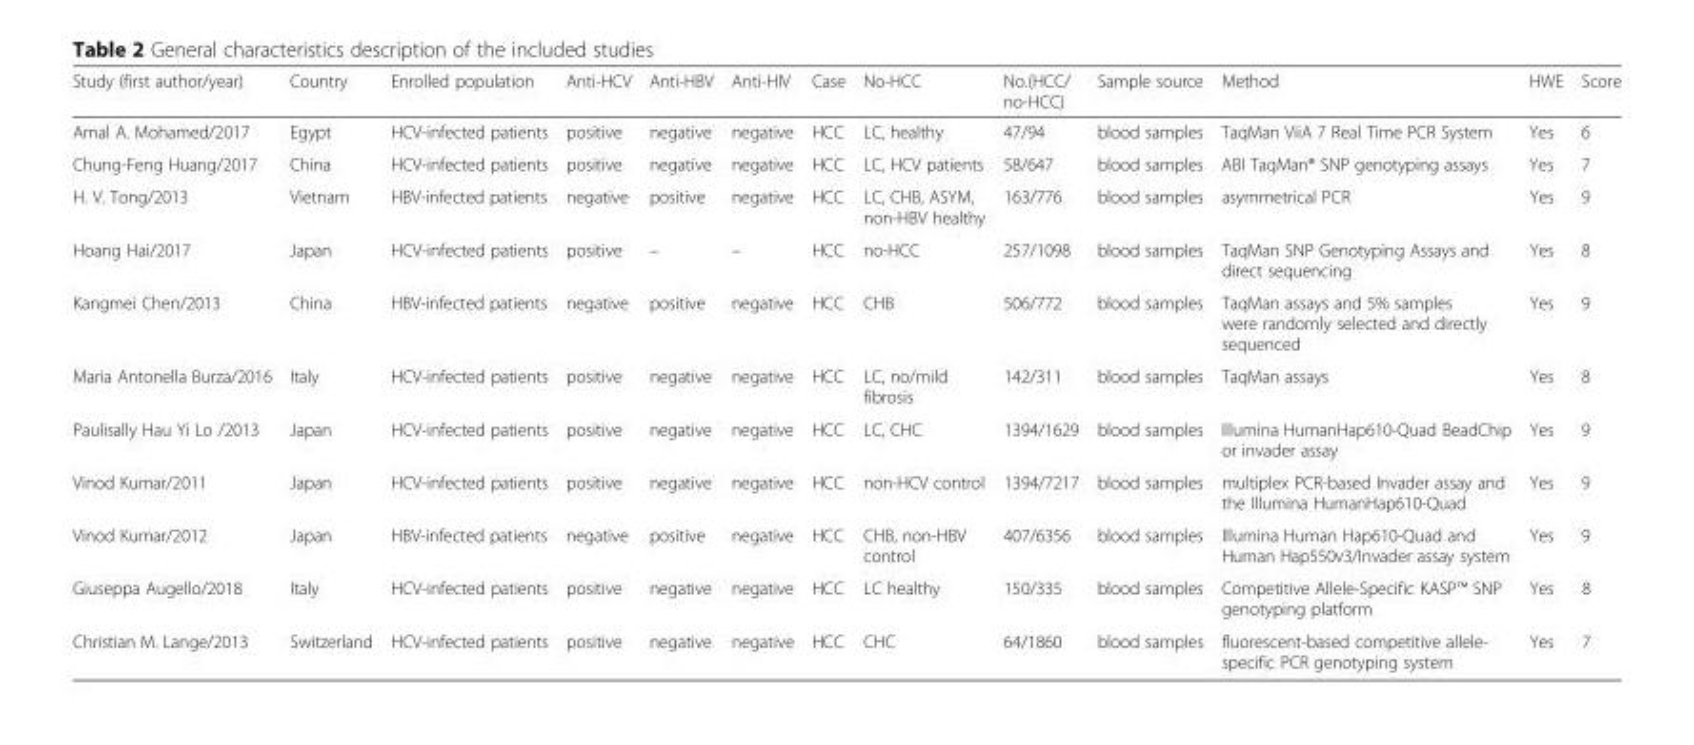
<table><thead><tr><td>Study (first author/year)</td><td>Country</td><td>Enrolled population</td><td>Anti-HCV</td><td>Anti-HBV</td><td>Anti-HIV</td><td>Case</td><td>No-HCC</td><td>No.(HCC/ no-HCC)</td><td>Sample source</td><td>Method</td><td>HWE</td><td>Score</td></tr></thead><tbody><tr><td>Amal A. Mohamed/2017</td><td>Egypt</td><td>HCV-infected patients</td><td>positive</td><td>negative</td><td>negative</td><td>HCC</td><td>LC, healthy</td><td>47/94</td><td>blood samples</td><td>TaqMan ViiA 7 Real Time PCR System</td><td>Yes</td><td>6</td></tr><tr><td>Chung-Feng Huang/2017</td><td>China</td><td>HCV-infected patients</td><td>positive</td><td>negative</td><td>negative</td><td>HCC</td><td>LC, HCV patients</td><td>58/647</td><td>blood samples</td><td>ABI TaqMan® SNP genotyping assays</td><td>Yes</td><td>7</td></tr><tr><td>H. V. Tong/2013</td><td>Vietnam</td><td>HBV-infected patients</td><td>negative</td><td>positive</td><td>negative</td><td>HCC</td><td>LC, CHB, ASYM, non-HBV healthy</td><td>163/776</td><td>blood samples</td><td>asymmetrical PCR</td><td>Yes</td><td>9</td></tr><tr><td>Hoang Hai/2017</td><td>Japan</td><td>HCV-infected patients</td><td>positive</td><td>–</td><td>–</td><td>HCC</td><td>no-HCC</td><td>257/1098</td><td>blood samples</td><td>TaqMan SNP Genotyping Assays and direct sequencing</td><td>Yes</td><td>8</td></tr><tr><td>Kangmei Chen/2013</td><td>China</td><td>HBV-infected patients</td><td>negative</td><td>positive</td><td>negative</td><td>HCC</td><td>CHB</td><td>506/772</td><td>blood samples</td><td>TaqMan assays and 5% samples were randomly selected and directly sequenced</td><td>Yes</td><td>9</td></tr><tr><td>Maria Antonella Burza/2016</td><td>Italy</td><td>HCV-infected patients</td><td>positive</td><td>negative</td><td>negative</td><td>HCC</td><td>LC, no/mild fibrosis</td><td>142/311</td><td>blood samples</td><td>TaqMan assays</td><td>Yes</td><td>8</td></tr><tr><td>Paulisally Hau Yi Lo /2013</td><td>Japan</td><td>HCV-infected patients</td><td>positive</td><td>negative</td><td>negative</td><td>HCC</td><td>LC, CHC</td><td>1394/1629</td><td>blood samples</td><td>Illumina HumanHap610-Quad BeadChip or invader assay</td><td>Yes</td><td>9</td></tr><tr><td>Vinod Kumar/2011</td><td>Japan</td><td>HCV-infected patients</td><td>positive</td><td>negative</td><td>negative</td><td>HCC</td><td>non-HCV control</td><td>1394/7217</td><td>blood samples</td><td>multiplex PCR-based Invader assay and the Illumina HumanHap610-Quad</td><td>Yes</td><td>9</td></tr><tr><td>Vinod Kumar/2012</td><td>Japan</td><td>HBV-infected patients</td><td>negative</td><td>positive</td><td>negative</td><td>HCC</td><td>CHB, non-HBV control</td><td>407/6356</td><td>blood samples</td><td>Illumina Human Hap610-Quad and Human Hap550v3/Invader assay system</td><td>Yes</td><td>9</td></tr><tr><td>Giuseppa Augello/2018</td><td>Italy</td><td>HCV-infected patients</td><td>positive</td><td>negative</td><td>negative</td><td>HCC</td><td>LC healthy</td><td>150/335</td><td>blood samples</td><td>Competitive Allele-Specific KASP™ SNP genotyping platform</td><td>Yes</td><td>8</td></tr><tr><td>Christian M. Lange/2013</td><td>Switzerland</td><td>HCV-infected patients</td><td>positive</td><td>negative</td><td>negative</td><td>HCC</td><td>CHC</td><td>64/1860</td><td>blood samples</td><td>fluorescent-based competitive allele- specific PCR genotyping system</td><td>Yes</td><td>7</td></tr></tbody></table>